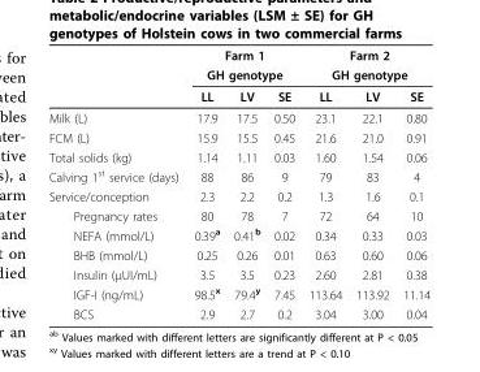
<table><thead><tr><td rowspan="3"></td><td rowspan="2" colspan="3">Farm 1 GH genotype</td><td rowspan="2" colspan="3">Farm 2 GH genotype</td></tr><tr></tr><tr><td>LL</td><td>LV</td><td>SE</td><td>LL</td><td>LV</td><td>SE</td></tr></thead><tbody><tr><td>Milk (L)</td><td>17.9</td><td>17.5</td><td>0.50</td><td>23.1</td><td>22.1</td><td>0.80</td></tr><tr><td>FCM (L)</td><td>15.9</td><td>15.5</td><td>0.45</td><td>21.6</td><td>21.0</td><td>0.91</td></tr><tr><td>Total solids (kg)</td><td>1.14</td><td>1.11</td><td>0.03</td><td>1.60</td><td>1.54</td><td>0.06</td></tr><tr><td>Calving 1<sup>st</sup> service (days)</td><td>88</td><td>86</td><td>9</td><td>79</td><td>83</td><td>4</td></tr><tr><td>Service/conception</td><td>2.3</td><td>2.2</td><td>0.2</td><td>1.3</td><td>1.6</td><td>0.1</td></tr><tr><td>Pregnancy rates</td><td>80</td><td>78</td><td>7</td><td>72</td><td>64</td><td>10</td></tr><tr><td>NEFA (mmol/L)</td><td>0.39<sup>a</sup></td><td>0.41<sup>b</sup></td><td>0.02</td><td>0.34</td><td>0.33</td><td>0.03</td></tr><tr><td>BHB (mmol/L)</td><td>0.25</td><td>0.26</td><td>0.01</td><td>0.63</td><td>0.60</td><td>0.06</td></tr><tr><td>Insulin (μUI/mL)</td><td>3.5</td><td>3.5</td><td>0.23</td><td>2.60</td><td>2.81</td><td>0.38</td></tr><tr><td>IGF-I (ng/mL)</td><td>98.5<sup>x</sup></td><td>79.4<sup>y</sup></td><td>7.45</td><td>113.64</td><td>113.92</td><td>11.14</td></tr><tr><td>BCS</td><td>2.9</td><td>2.7</td><td>0.2</td><td>3.04</td><td>3.00</td><td>0.04</td></tr></tbody></table>